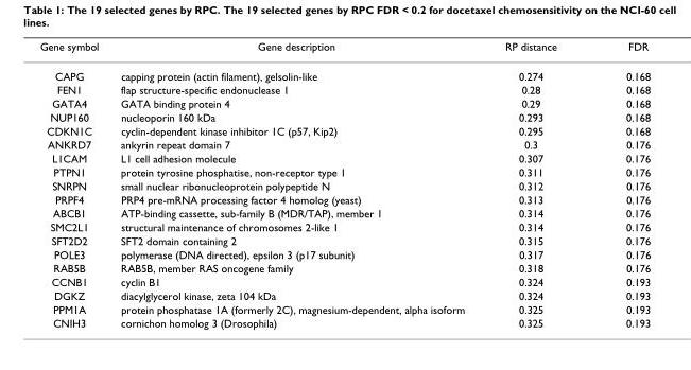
<table><thead><tr><td>Gene symbol</td><td>Gene description</td><td>RP distance</td><td>FDR</td></tr></thead><tbody><tr><td>CAPG</td><td>capping protein (actin filament), gelsolin-like</td><td>0.274</td><td>0.168</td></tr><tr><td>FEN1</td><td>flap structure-specific endonuclease 1</td><td>0.28</td><td>0.168</td></tr><tr><td>GATA4</td><td>GATA binding protein 4</td><td>0.29</td><td>0.168</td></tr><tr><td>NUP160</td><td>nucleoporin 160 kDa</td><td>0.293</td><td>0.168</td></tr><tr><td>CDKN1C</td><td>cyclin-dependent kinase inhibitor 1C (p57, Kip2)</td><td>0.295</td><td>0.168</td></tr><tr><td>ANKRD7</td><td>ankyrin repeat domain 7</td><td>0.3</td><td>0.176</td></tr><tr><td>L1CAM</td><td>L1 cell adhesion molecule</td><td>0.307</td><td>0.176</td></tr><tr><td>PTPN1</td><td>protein tyrosine phosphatise, non-receptor type 1</td><td>0.311</td><td>0.176</td></tr><tr><td>SNRPN</td><td>small nuclear ribonucleoprotein polypeptide N</td><td>0.312</td><td>0.176</td></tr><tr><td>PRPF4</td><td>PRP4 pre-mRNA processing factor 4 homolog (yeast)</td><td>0.313</td><td>0.176</td></tr><tr><td>ABCB1</td><td>ATP-binding cassette, sub-family B (MDR/TAP), member 1</td><td>0.314</td><td>0.176</td></tr><tr><td>SMC2L1</td><td>structural maintenance of chromosomes 2-like 1</td><td>0.314</td><td>0.176</td></tr><tr><td>SFT2D2</td><td>SFT2 domain containing 2</td><td>0.315</td><td>0.176</td></tr><tr><td>POLE3</td><td>polymerase (DNA directed), epsilon 3 (p17 subunit)</td><td>0.317</td><td>0.176</td></tr><tr><td>RAB5B</td><td>RAB5B, member RAS oncogene family</td><td>0.318</td><td>0.176</td></tr><tr><td>CCNB1</td><td>cyclin B1</td><td>0.324</td><td>0.193</td></tr><tr><td>DGKZ</td><td>diacylglycerol kinase, zeta 104 kDa</td><td>0.324</td><td>0.193</td></tr><tr><td>PPM1A</td><td>protein phosphatase 1A (formerly 2C), magnesium-dependent, alpha isoform</td><td>0.325</td><td>0.193</td></tr><tr><td>CNIH3</td><td>cornichon homolog 3 (Drosophila)</td><td>0.325</td><td>0.193</td></tr></tbody></table>